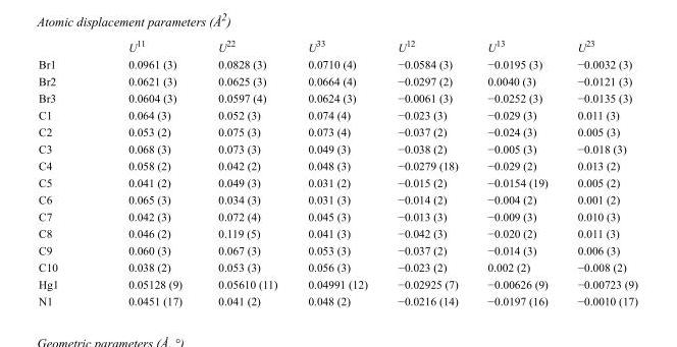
<table><thead><tr><td></td><td>U<sup>11</sup></td><td>U<sup>22</sup></td><td>U<sup>33</sup></td><td>U<sup>12</sup></td><td>U<sup>13</sup></td><td>U<sup>23</sup></td></tr></thead><tbody><tr><td>Br1</td><td>0.0961 (3)</td><td>0.0828 (3)</td><td>0.0710 (4)</td><td>−0.0584 (3)</td><td>−0.0195 (3)</td><td>−0.0032 (3)</td></tr><tr><td>Br2</td><td>0.0621 (3)</td><td>0.0625 (3)</td><td>0.0664 (4)</td><td>−0.0297 (2)</td><td>0.0040 (3)</td><td>−0.0121 (3)</td></tr><tr><td>Br3</td><td>0.0604 (3)</td><td>0.0597 (4)</td><td>0.0624 (3)</td><td>−0.0061 (3)</td><td>−0.0252 (3)</td><td>−0.0135 (3)</td></tr><tr><td>C1</td><td>0.064 (3)</td><td>0.052 (3)</td><td>0.074 (4)</td><td>−0.023 (3)</td><td>−0.029 (3)</td><td>0.011 (3)</td></tr><tr><td>C2</td><td>0.053 (2)</td><td>0.075 (3)</td><td>0.073 (4)</td><td>−0.037 (2)</td><td>−0.024 (3)</td><td>0.005 (3)</td></tr><tr><td>C3</td><td>0.068 (3)</td><td>0.073 (3)</td><td>0.049 (3)</td><td>−0.038 (2)</td><td>−0.005 (3)</td><td>−0.018 (3)</td></tr><tr><td>C4</td><td>0.058 (2)</td><td>0.042 (2)</td><td>0.048 (3)</td><td>−0.0279 (18)</td><td>−0.029 (2)</td><td>0.013 (2)</td></tr><tr><td>C5</td><td>0.041 (2)</td><td>0.049 (3)</td><td>0.031 (2)</td><td>−0.015 (2)</td><td>−0.0154 (19)</td><td>0.005 (2)</td></tr><tr><td>C6</td><td>0.065 (3)</td><td>0.034 (3)</td><td>0.031 (3)</td><td>−0.014 (2)</td><td>−0.004 (2)</td><td>0.001 (2)</td></tr><tr><td>C7</td><td>0.042 (3)</td><td>0.072 (4)</td><td>0.045 (3)</td><td>−0.013 (3)</td><td>−0.009 (3)</td><td>0.010 (3)</td></tr><tr><td>C8</td><td>0.046 (2)</td><td>0.119 (5)</td><td>0.041 (3)</td><td>−0.042 (3)</td><td>−0.020 (2)</td><td>0.011 (3)</td></tr><tr><td>C9</td><td>0.060 (3)</td><td>0.067 (3)</td><td>0.053 (3)</td><td>−0.037 (2)</td><td>−0.014 (3)</td><td>0.006 (3)</td></tr><tr><td>C10</td><td>0.038 (2)</td><td>0.053 (3)</td><td>0.056 (3)</td><td>−0.023 (2)</td><td>0.002 (2)</td><td>−0.008 (2)</td></tr><tr><td>Hg1</td><td>0.05128 (9)</td><td>0.05610 (11)</td><td>0.04991 (12)</td><td>−0.02925 (7)</td><td>−0.00626 (9)</td><td>−0.00723 (9)</td></tr><tr><td>N1</td><td>0.0451 (17)</td><td>0.041 (2)</td><td>0.048 (2)</td><td>−0.0216 (14)</td><td>−0.0197 (16)</td><td>−0.0010 (17)</td></tr></tbody></table>